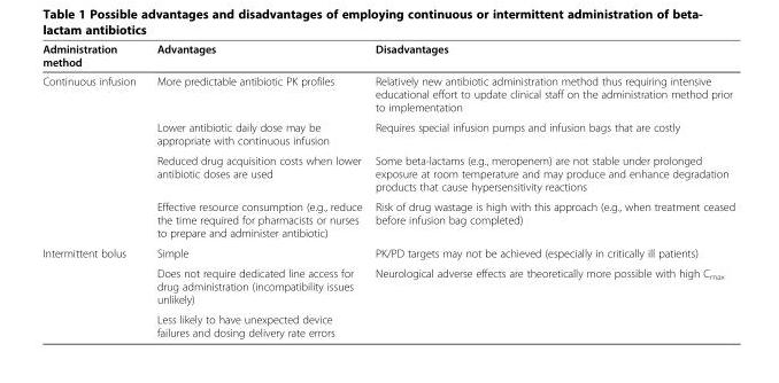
<table><thead><tr><td>Administration method</td><td>Advantages</td><td>Disadvantages</td></tr></thead><tbody><tr><td rowspan="4">Continuous infusion</td><td>More predictable antibiotic PK profiles</td><td>Relatively new antibiotic administration method thus requiring intensive educational effort to update clinical staff on the administration method prior to implementation</td></tr><tr><td>Lower antibiotic daily dose may be appropriate with continuous infusion</td><td>Requires special infusion pumps and infusion bags that are costly</td></tr><tr><td>Reduced drug acquisition costs when lower antibiotic doses are used</td><td>Some beta-lactams (e.g., meropenem) are not stable under prolonged exposure at room temperature and may produce and enhance degradation products that cause hypersensitivity reactions</td></tr><tr><td>Effective resource consumption (e.g., reduce the time required for pharmacists or nurses to prepare and administer antibiotic)</td><td>Risk of drug wastage is high with this approach (e.g., when treatment ceased before infusion bag completed)</td></tr><tr><td rowspan="3">Intermittent bolus</td><td>Simple</td><td>PK/PD targets may not be achieved (especially in critically ill patients)</td></tr><tr><td>Does not require dedicated line access for drug administration (incompatibility issues unlikely)</td><td>Neurological adverse effects are theoretically more possible with high C<sub>max</sub></td></tr><tr><td>Less likely to have unexpected device failures and dosing delivery rate errors</td><td></td></tr></tbody></table>